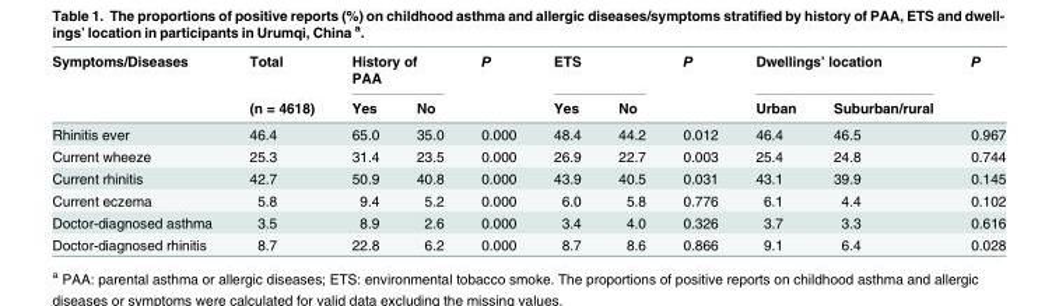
<table><thead><tr><td rowspan="2">Symptoms/Diseases</td><td rowspan="2">Total (n = 4618)</td><td colspan="2">History of PAA</td><td rowspan="2">P</td><td colspan="2">ETS</td><td rowspan="2">P</td><td colspan="2">Dwellings’ location</td><td rowspan="2">P</td></tr><tr><td>Yes</td><td>No</td><td>Yes</td><td>No</td><td>Urban</td><td>Suburban/rural</td></tr></thead><tbody><tr><td>Rhinitis ever</td><td>46.4</td><td>65.0</td><td>35.0</td><td>0.000</td><td>48.4</td><td>44.2</td><td>0.012</td><td>46.4</td><td>46.5</td><td>0.967</td></tr><tr><td>Current wheeze</td><td>25.3</td><td>31.4</td><td>23.5</td><td>0.000</td><td>26.9</td><td>22.7</td><td>0.003</td><td>25.4</td><td>24.8</td><td>0.744</td></tr><tr><td>Current rhinitis</td><td>42.7</td><td>50.9</td><td>40.8</td><td>0.000</td><td>43.9</td><td>40.5</td><td>0.031</td><td>43.1</td><td>39.9</td><td>0.145</td></tr><tr><td>Current eczema</td><td>5.8</td><td>9.4</td><td>5.2</td><td>0.000</td><td>6.0</td><td>5.8</td><td>0.776</td><td>6.1</td><td>4.4</td><td>0.102</td></tr><tr><td>Doctor-diagnosed asthma</td><td>3.5</td><td>8.9</td><td>2.6</td><td>0.000</td><td>3.4</td><td>4.0</td><td>0.326</td><td>3.7</td><td>3.3</td><td>0.616</td></tr><tr><td>Doctor-diagnosed rhinitis</td><td>8.7</td><td>22.8</td><td>6.2</td><td>0.000</td><td>8.7</td><td>8.6</td><td>0.866</td><td>9.1</td><td>6.4</td><td>0.028</td></tr></tbody></table>